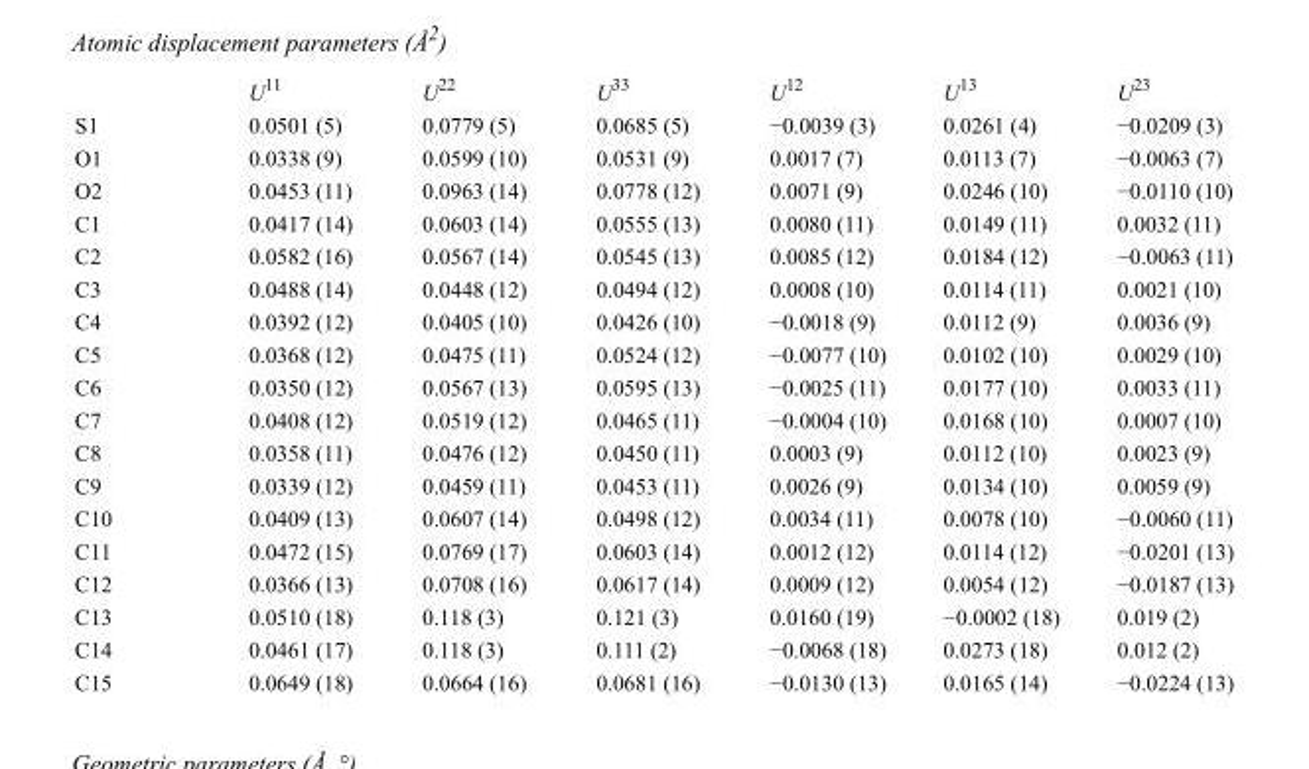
<table><thead><tr><td></td><td>U<sup>11</sup></td><td>U<sup>22</sup></td><td>U<sup>33</sup></td><td>U<sup>12</sup></td><td>U<sup>13</sup></td><td>U<sup>23</sup></td></tr></thead><tbody><tr><td>S1</td><td>0.0501 (5)</td><td>0.0779 (5)</td><td>0.0685 (5)</td><td>−0.0039 (3)</td><td>0.0261 (4)</td><td>−0.0209 (3)</td></tr><tr><td>O1</td><td>0.0338 (9)</td><td>0.0599 (10)</td><td>0.0531 (9)</td><td>0.0017 (7)</td><td>0.0113 (7)</td><td>−0.0063 (7)</td></tr><tr><td>O2</td><td>0.0453 (11)</td><td>0.0963 (14)</td><td>0.0778 (12)</td><td>0.0071 (9)</td><td>0.0246 (10)</td><td>−0.0110 (10)</td></tr><tr><td>C1</td><td>0.0417 (14)</td><td>0.0603 (14)</td><td>0.0555 (13)</td><td>0.0080 (11)</td><td>0.0149 (11)</td><td>0.0032 (11)</td></tr><tr><td>C2</td><td>0.0582 (16)</td><td>0.0567 (14)</td><td>0.0545 (13)</td><td>0.0085 (12)</td><td>0.0184 (12)</td><td>−0.0063 (11)</td></tr><tr><td>C3</td><td>0.0488 (14)</td><td>0.0448 (12)</td><td>0.0494 (12)</td><td>0.0008 (10)</td><td>0.0114 (11)</td><td>0.0021 (10)</td></tr><tr><td>C4</td><td>0.0392 (12)</td><td>0.0405 (10)</td><td>0.0426 (10)</td><td>−0.0018 (9)</td><td>0.0112 (9)</td><td>0.0036 (9)</td></tr><tr><td>C5</td><td>0.0368 (12)</td><td>0.0475 (11)</td><td>0.0524 (12)</td><td>−0.0077 (10)</td><td>0.0102 (10)</td><td>0.0029 (10)</td></tr><tr><td>C6</td><td>0.0350 (12)</td><td>0.0567 (13)</td><td>0.0595 (13)</td><td>−0.0025 (11)</td><td>0.0177 (10)</td><td>0.0033 (11)</td></tr><tr><td>C7</td><td>0.0408 (12)</td><td>0.0519 (12)</td><td>0.0465 (11)</td><td>−0.0004 (10)</td><td>0.0168 (10)</td><td>0.0007 (10)</td></tr><tr><td>C8</td><td>0.0358 (11)</td><td>0.0476 (12)</td><td>0.0450 (11)</td><td>0.0003 (9)</td><td>0.0112 (10)</td><td>0.0023 (9)</td></tr><tr><td>C9</td><td>0.0339 (12)</td><td>0.0459 (11)</td><td>0.0453 (11)</td><td>0.0026 (9)</td><td>0.0134 (10)</td><td>0.0059 (9)</td></tr><tr><td>C10</td><td>0.0409 (13)</td><td>0.0607 (14)</td><td>0.0498 (12)</td><td>0.0034 (11)</td><td>0.0078 (10)</td><td>−0.0060 (11)</td></tr><tr><td>C11</td><td>0.0472 (15)</td><td>0.0769 (17)</td><td>0.0603 (14)</td><td>0.0012 (12)</td><td>0.0114 (12)</td><td>−0.0201 (13)</td></tr><tr><td>C12</td><td>0.0366 (13)</td><td>0.0708 (16)</td><td>0.0617 (14)</td><td>0.0009 (12)</td><td>0.0054 (12)</td><td>−0.0187 (13)</td></tr><tr><td>C13</td><td>0.0510 (18)</td><td>0.118 (3)</td><td>0.121 (3)</td><td>0.0160 (19)</td><td>−0.0002 (18)</td><td>0.019 (2)</td></tr><tr><td>C14</td><td>0.0461 (17)</td><td>0.118 (3)</td><td>0.111 (2)</td><td>−0.0068 (18)</td><td>0.0273 (18)</td><td>0.012 (2)</td></tr><tr><td>C15</td><td>0.0649 (18)</td><td>0.0664 (16)</td><td>0.0681 (16)</td><td>−0.0130 (13)</td><td>0.0165 (14)</td><td>−0.0224 (13)</td></tr></tbody></table>